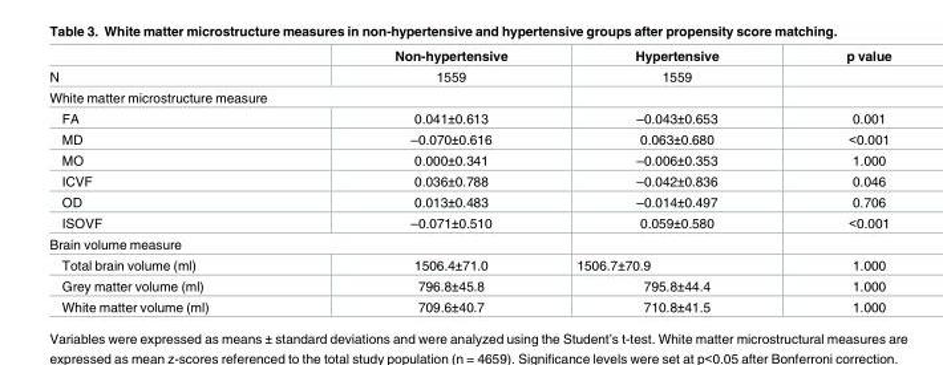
<table><thead><tr><td></td><td>Non-hypertensive</td><td>Hypertensive</td><td>p value</td></tr></thead><tbody><tr><td>N</td><td>1559</td><td>1559</td><td></td></tr><tr><td colspan="4">White matter microstructure measure</td></tr><tr><td>FA</td><td>0.041±0.613</td><td>–0.043±0.653</td><td>0.001</td></tr><tr><td>MD</td><td>–0.070±0.616</td><td>0.063±0.680</td><td>&lt;0.001</td></tr><tr><td>MO</td><td>0.000±0.341</td><td>–0.006±0.353</td><td>1.000</td></tr><tr><td>ICVF</td><td>0.036±0.788</td><td>–0.042±0.836</td><td>0.046</td></tr><tr><td>OD</td><td>0.013±0.483</td><td>–0.014±0.497</td><td>0.706</td></tr><tr><td>ISOVF</td><td>–0.071±0.510</td><td>0.059±0.580</td><td>&lt;0.001</td></tr><tr><td colspan="4">Brain volume measure</td></tr><tr><td>Total brain volume (ml)</td><td>1506.4±71.0</td><td>1506.7±70.9</td><td>1.000</td></tr><tr><td>Grey matter volume (ml)</td><td>796.8±45.8</td><td>795.8±44.4</td><td>1.000</td></tr><tr><td>White matter volume (ml)</td><td>709.6±40.7</td><td>710.8±41.5</td><td>1.000</td></tr></tbody></table>